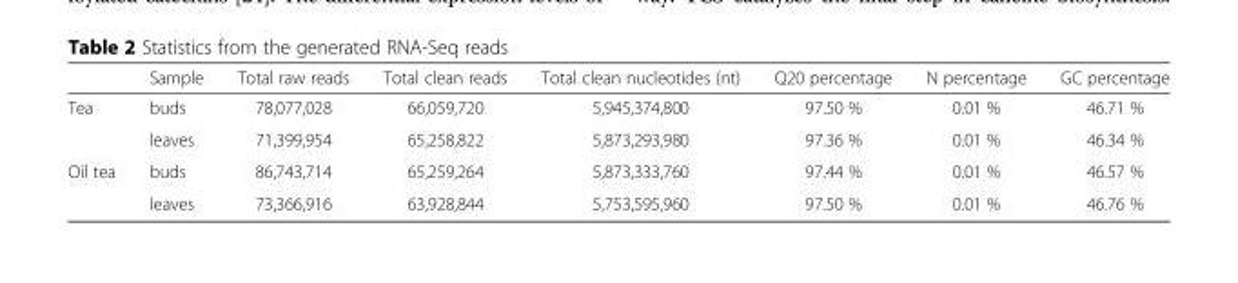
<table><thead><tr><td></td><td>Sample</td><td>Total raw reads</td><td>Total clean reads</td><td>Total clean nucleotides (nt)</td><td>Q20 percentage</td><td>N percentage</td><td>GC percentage</td></tr></thead><tbody><tr><td rowspan="2">Tea</td><td>buds</td><td>78,077,028</td><td>66,059,720</td><td>5,945,374,800</td><td>97.50 %</td><td>0.01 %</td><td>46.71 %</td></tr><tr><td>leaves</td><td>71,399,954</td><td>65,258,822</td><td>5,873,293,980</td><td>97.36 %</td><td>0.01 %</td><td>46.34 %</td></tr><tr><td rowspan="2">Oil tea</td><td>buds</td><td>86,743,714</td><td>65,259,264</td><td>5,873,333,760</td><td>97.44 %</td><td>0.01 %</td><td>46.57 %</td></tr><tr><td>leaves</td><td>73,366,916</td><td>63,928,844</td><td>5,753,595,960</td><td>97.50 %</td><td>0.01 %</td><td>46.76 %</td></tr></tbody></table>